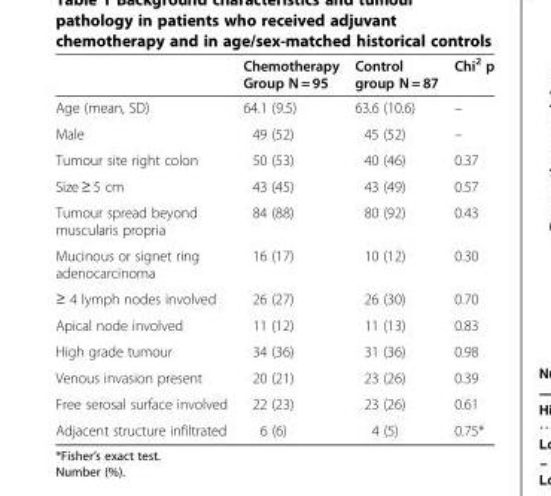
<table><thead><tr><td></td><td>Chemotherapy Group N = 95</td><td>Control group N = 87</td><td>Chi<sup>2</sup> p</td></tr></thead><tbody><tr><td>Age (mean, SD)</td><td>64.1 (9.5)</td><td>63.6 (10.6)</td><td>–</td></tr><tr><td>Male</td><td>49 (52)</td><td>45 (52)</td><td>–</td></tr><tr><td>Tumour site right colon</td><td>50 (53)</td><td>40 (46)</td><td>0.37</td></tr><tr><td>Size ≥ 5 cm</td><td>43 (45)</td><td>43 (49)</td><td>0.57</td></tr><tr><td>Tumour spread beyond muscularis propria</td><td>84 (88)</td><td>80 (92)</td><td>0.43</td></tr><tr><td>Mucinous or signet ring adenocarcinoma</td><td>16 (17)</td><td>10 (12)</td><td>0.30</td></tr><tr><td>≥ 4 lymph nodes involved</td><td>26 (27)</td><td>26 (30)</td><td>0.70</td></tr><tr><td>Apical node involved</td><td>11 (12)</td><td>11 (13)</td><td>0.83</td></tr><tr><td>High grade tumour</td><td>34 (36)</td><td>31 (36)</td><td>0.98</td></tr><tr><td>Venous invasion present</td><td>20 (21)</td><td>23 (26)</td><td>0.39</td></tr><tr><td>Free serosal surface involved</td><td>22 (23)</td><td>23 (26)</td><td>0.61</td></tr><tr><td>Adjacent structure infiltrated</td><td>6 (6)</td><td>4 (5)</td><td>0.75*</td></tr></tbody></table>